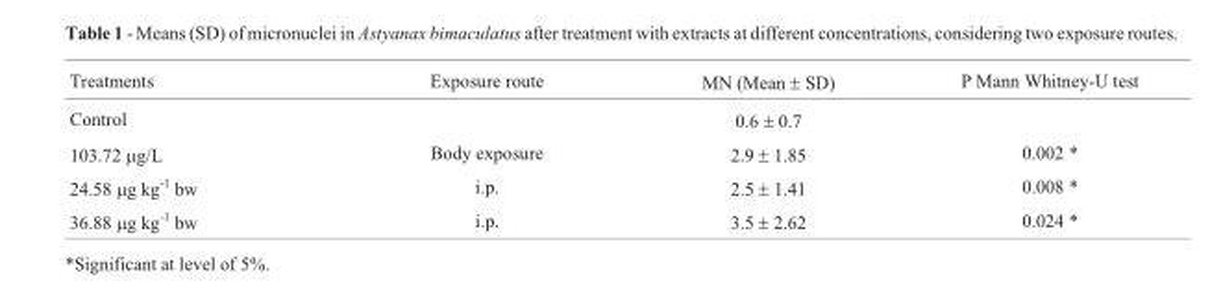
<table><thead><tr><td>Treatments</td><td>Exposure route</td><td>MN (Mean ± SD)</td><td>P Mann Whitney-U test</td></tr></thead><tbody><tr><td>Control</td><td></td><td>0.6 ± 0.7</td><td></td></tr><tr><td>103.72 μg/L</td><td>Body exposure</td><td>2.9 ± 1.85</td><td>0.002 *</td></tr><tr><td>24.58 μg kg<sup>-1</sup> bw</td><td>i.p.</td><td>2.5 ± 1.41</td><td>0.008 *</td></tr><tr><td>36.88 μg kg<sup>-1</sup> bw</td><td>i.p.</td><td>3.5 ± 2.62</td><td>0.024 *</td></tr></tbody></table>